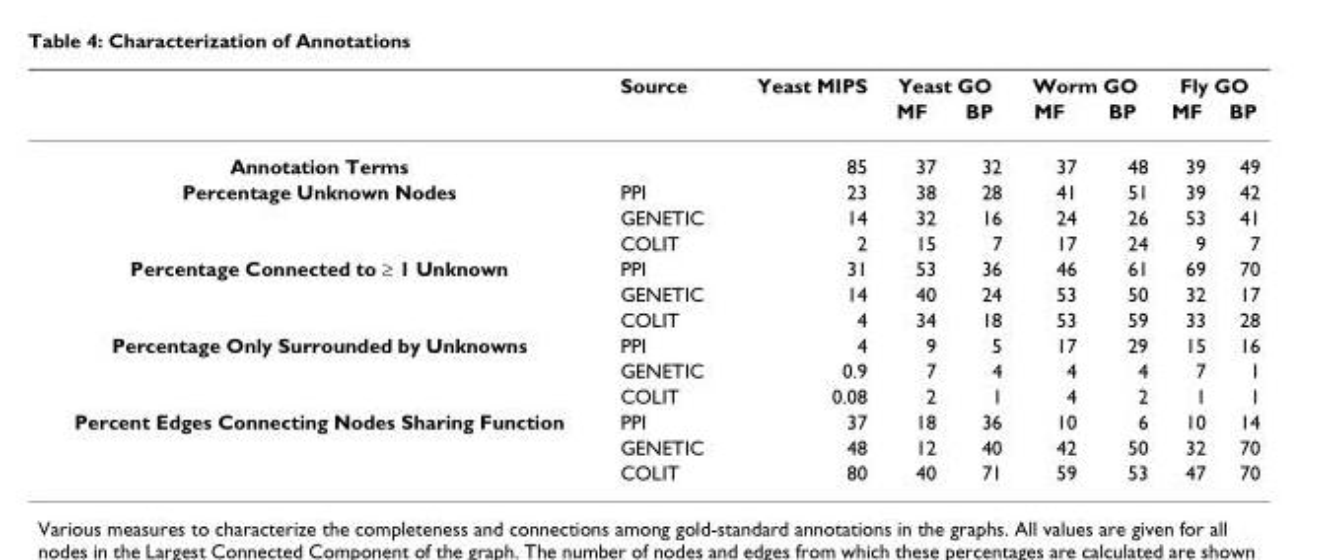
<table><thead><tr><td rowspan="2"></td><td rowspan="2">Source</td><td rowspan="2">Yeast MIPS</td><td colspan="2">Yeast GO</td><td colspan="2">Worm GO</td><td colspan="2">Fly GO</td></tr><tr><td>MF</td><td>BP</td><td>MF</td><td>BP</td><td>MF</td><td>BP</td></tr></thead><tbody><tr><td>Annotation Terms</td><td></td><td>85</td><td>37</td><td>32</td><td>37</td><td>48</td><td>39</td><td>49</td></tr><tr><td rowspan="3">Percentage Unknown Nodes</td><td>PPI</td><td>23</td><td>38</td><td>28</td><td>41</td><td>51</td><td>39</td><td>42</td></tr><tr><td>GENETIC</td><td>14</td><td>32</td><td>16</td><td>24</td><td>26</td><td>53</td><td>41</td></tr><tr><td>COLIT</td><td>2</td><td>15</td><td>7</td><td>17</td><td>24</td><td>9</td><td>7</td></tr><tr><td rowspan="3">Percentage Connected to ≥ 1 Unknown</td><td>PPI</td><td>31</td><td>53</td><td>36</td><td>46</td><td>61</td><td>69</td><td>70</td></tr><tr><td>GENETIC</td><td>14</td><td>40</td><td>24</td><td>53</td><td>50</td><td>32</td><td>17</td></tr><tr><td>COLIT</td><td>4</td><td>34</td><td>18</td><td>53</td><td>59</td><td>33</td><td>28</td></tr><tr><td rowspan="3">Percentage Only Surrounded by Unknowns</td><td>PPI</td><td>4</td><td>9</td><td>5</td><td>17</td><td>29</td><td>15</td><td>16</td></tr><tr><td>GENETIC</td><td>0.9</td><td>7</td><td>4</td><td>4</td><td>4</td><td>7</td><td>1</td></tr><tr><td>COLIT</td><td>0.08</td><td>2</td><td>1</td><td>4</td><td>2</td><td>1</td><td>1</td></tr><tr><td rowspan="3">Percent Edges Connecting Nodes Sharing Function</td><td>PPI</td><td>37</td><td>18</td><td>36</td><td>10</td><td>6</td><td>10</td><td>14</td></tr><tr><td>GENETIC</td><td>48</td><td>12</td><td>40</td><td>42</td><td>50</td><td>32</td><td>70</td></tr><tr><td>COLIT</td><td>80</td><td>40</td><td>71</td><td>59</td><td>53</td><td>47</td><td>70</td></tr></tbody></table>